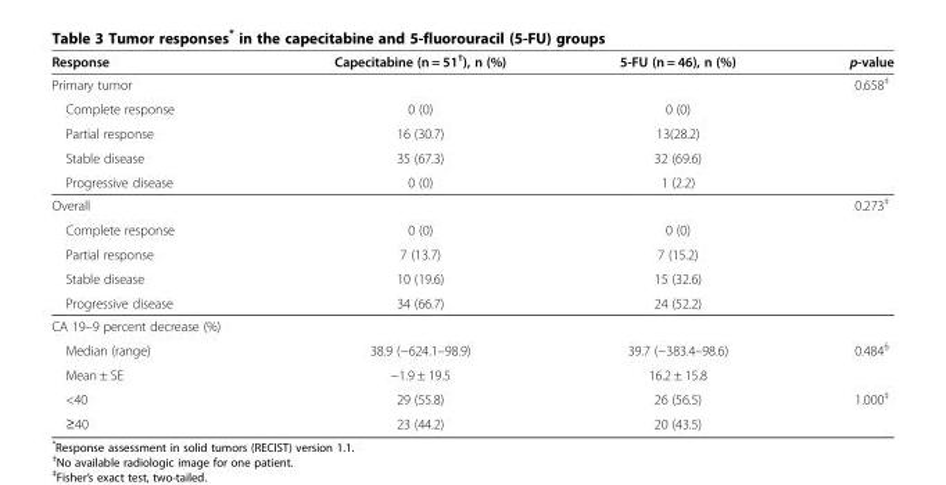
<table><thead><tr><td>Response</td><td>Capecitabine (n = 51<sup>†</sup>), n (%)</td><td>5-FU (n = 46), n (%)</td><td>p-value</td></tr></thead><tbody><tr><td>Primary tumor</td><td></td><td></td><td>0.658<sup>‡</sup></td></tr><tr><td>Complete response</td><td>0 (0)</td><td>0 (0)</td><td></td></tr><tr><td>Partial response</td><td>16 (30.7)</td><td>13(28.2)</td><td></td></tr><tr><td>Stable disease</td><td>35 (67.3)</td><td>32 (69.6)</td><td></td></tr><tr><td>Progressive disease</td><td>0 (0)</td><td>1 (2.2)</td><td></td></tr><tr><td>Overall</td><td></td><td></td><td>0.273<sup>‡</sup></td></tr><tr><td>Complete response</td><td>0 (0)</td><td>0 (0)</td><td></td></tr><tr><td>Partial response</td><td>7 (13.7)</td><td>7 (15.2)</td><td></td></tr><tr><td>Stable disease</td><td>10 (19.6)</td><td>15 (32.6)</td><td></td></tr><tr><td>Progressive disease</td><td>34 (66.7)</td><td>24 (52.2)</td><td></td></tr><tr><td colspan="4">CA 19–9 percent decrease (%)</td></tr><tr><td>Median (range)</td><td>38.9 (−624.1–98.9)</td><td>39.7 (−383.4–98.6)</td><td>0.484<sup>§</sup></td></tr><tr><td>Mean ± SE</td><td>−1.9 ± 19.5</td><td>16.2 ± 15.8</td><td></td></tr><tr><td>&lt;40</td><td>29 (55.8)</td><td>26 (56.5)</td><td>1.000<sup>‡</sup></td></tr><tr><td>≥40</td><td>23 (44.2)</td><td>20 (43.5)</td><td></td></tr></tbody></table>